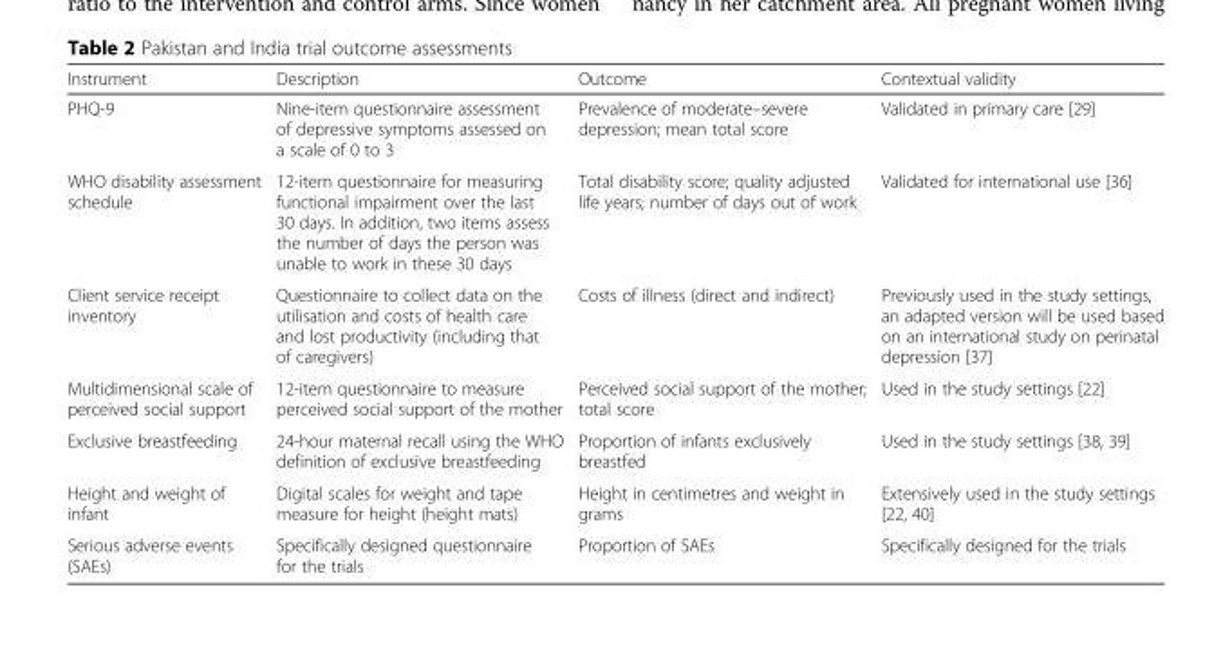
<table><thead><tr><td>Instrument</td><td>Description</td><td>Outcome</td><td>Contextual validity</td></tr></thead><tbody><tr><td>PHQ-9</td><td>Nine-item questionnaire assessment of depressive symptoms assessed on a scale of 0 to 3</td><td>Prevalence of moderate–severe depression; mean total score</td><td>Validated in primary care [29]</td></tr><tr><td>WHO disability assessment schedule</td><td>12-item questionnaire for measuring functional impairment over the last 30 days. In addition, two items assess the number of days the person was unable to work in these 30 days</td><td>Total disability score; quality adjusted life years; number of days out of work</td><td>Validated for international use [36]</td></tr><tr><td>Client service receipt inventory</td><td>Questionnaire to collect data on the utilisation and costs of health care and lost productivity (including that of caregivers)</td><td>Costs of illness (direct and indirect)</td><td>Previously used in the study settings, an adapted version will be used based on an international study on perinatal depression [37]</td></tr><tr><td>Multidimensional scale of perceived social support</td><td>12-item questionnaire to measure perceived social support of the mother</td><td>Perceived social support of the mother; total score</td><td>Used in the study settings [22]</td></tr><tr><td>Exclusive breastfeeding</td><td>24-hour maternal recall using the WHO definition of exclusive breastfeeding</td><td>Proportion of infants exclusively breastfed</td><td>Used in the study settings [38, 39]</td></tr><tr><td>Height and weight of infant</td><td>Digital scales for weight and tape measure for height (height mats)</td><td>Height in centimetres and weight in grams</td><td>Extensively used in the study settings [22, 40]</td></tr><tr><td>Serious adverse events (SAEs)</td><td>Specifically designed questionnaire for the trials</td><td>Proportion of SAEs</td><td>Specifically designed for the trials</td></tr></tbody></table>